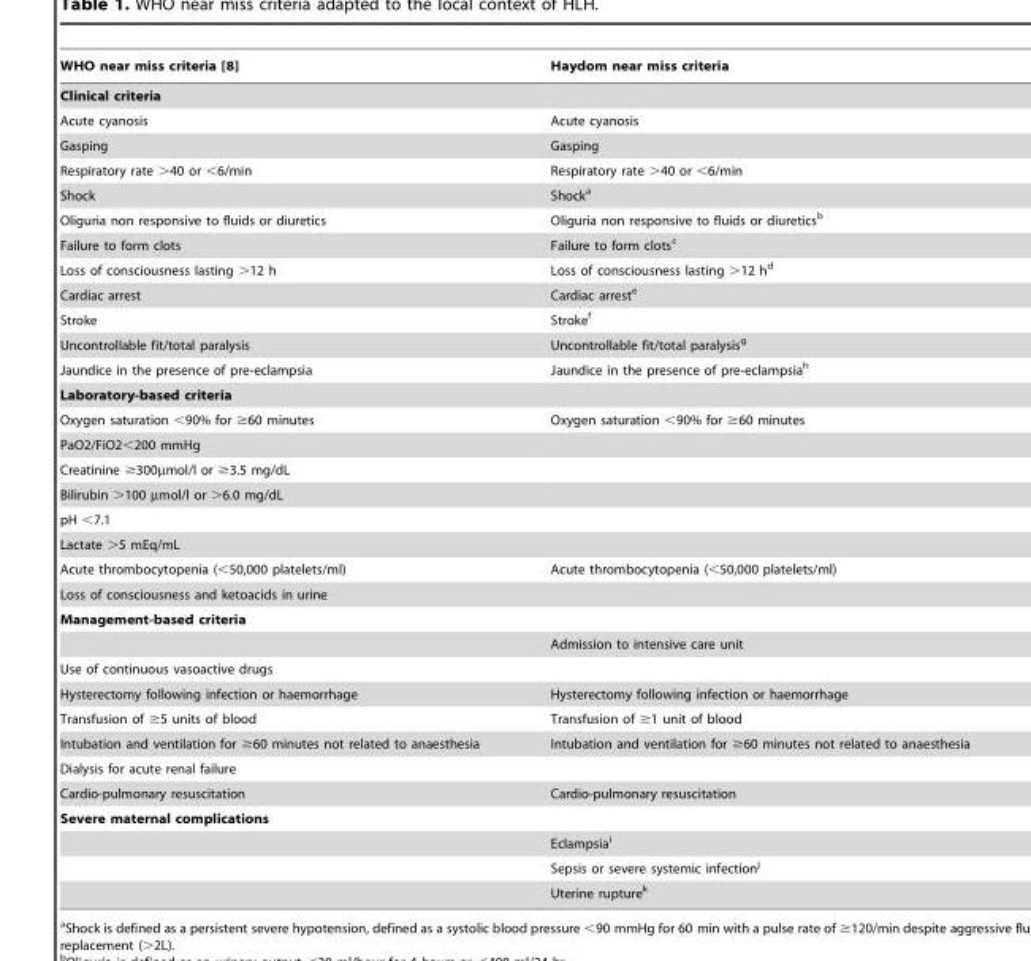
<table><thead><tr><td>WHO near miss criteria [8]</td><td>Haydom near miss criteria</td></tr></thead><tbody><tr><td colspan="2">Clinical criteria</td></tr><tr><td>Acute cyanosis</td><td>Acute cyanosis</td></tr><tr><td>Gasping</td><td>Gasping</td></tr><tr><td>Respiratory rate &gt;40 or &lt;6/min</td><td>Respiratory rate &gt;40 or &lt;6/min</td></tr><tr><td>Shock</td><td>Shock<sup>a</sup></td></tr><tr><td>Oliguria non responsive to fluids or diuretics</td><td>Oliguria non responsive to fluids or diuretics<sup>b</sup></td></tr><tr><td>Failure to form clots</td><td>Failure to form clots<sup>c</sup></td></tr><tr><td>Loss of consciousness lasting &gt;12 h</td><td>Loss of consciousness lasting &gt;12 h<sup>d</sup></td></tr><tr><td>Cardiac arrest</td><td>Cardiac arrest<sup>e</sup></td></tr><tr><td>Stroke</td><td>Stroke<sup>f</sup></td></tr><tr><td>Uncontrollable fit/total paralysis</td><td>Uncontrollable fit/total paralysis<sup>g</sup></td></tr><tr><td>Jaundice in the presence of pre-eclampsia</td><td>Jaundice in the presence of pre-eclampsia<sup>h</sup></td></tr><tr><td colspan="2">Laboratory-based criteria</td></tr><tr><td>Oxygen saturation &lt;90% for ≥60 minutes</td><td>Oxygen saturation &lt;90% for ≥60 minutes</td></tr><tr><td colspan="2">PaO2/FiO2&lt;200 mmHg</td></tr><tr><td colspan="2">Creatinine ≥300µmol/l or ≥3.5 mg/dL</td></tr><tr><td colspan="2">Bilirubin &gt;100 µmol/l or &gt;6.0 mg/dL</td></tr><tr><td colspan="2">pH &lt;7.1</td></tr><tr><td colspan="2">Lactate &gt;5 mEq/mL</td></tr><tr><td>Acute thrombocytopenia (&lt;50,000 platelets/ml)</td><td>Acute thrombocytopenia (&lt;50,000 platelets/ml)</td></tr><tr><td colspan="2">Loss of consciousness and ketoacids in urine</td></tr><tr><td colspan="2">Management-based criteria</td></tr><tr><td></td><td>Admission to intensive care unit</td></tr><tr><td colspan="2">Use of continuous vasoactive drugs</td></tr><tr><td>Hysterectomy following infection or haemorrhage</td><td>Hysterectomy following infection or haemorrhage</td></tr><tr><td>Transfusion of ≥5 units of blood</td><td>Transfusion of ≥1 unit of blood</td></tr><tr><td>Intubation and ventilation for ≥60 minutes not related to anaesthesia</td><td>Intubation and ventilation for ≥60 minutes not related to anaesthesia</td></tr><tr><td colspan="2">Dialysis for acute renal failure</td></tr><tr><td>Cardio-pulmonary resuscitation</td><td>Cardio-pulmonary resuscitation</td></tr><tr><td colspan="2">Severe maternal complications</td></tr><tr><td></td><td>Eclampsia<sup>i</sup></td></tr><tr><td></td><td>Sepsis or severe systemic infection<sup>j</sup></td></tr><tr><td></td><td>Uterine rupture<sup>k</sup></td></tr></tbody></table>